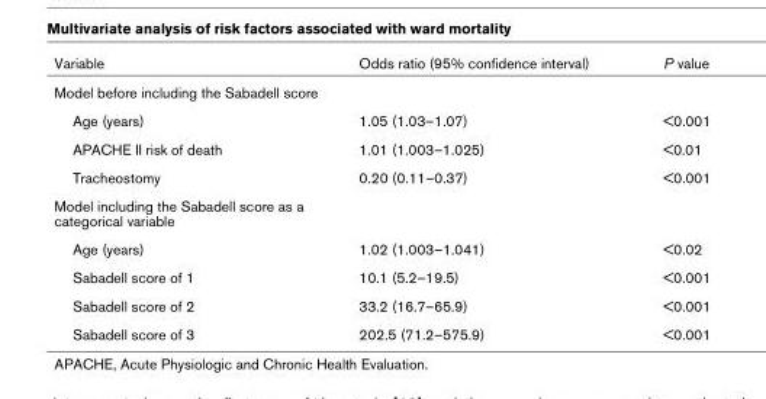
<table><thead><tr><td>Variable</td><td>Odds ratio (95% confidence interval)</td><td>P value</td></tr></thead><tbody><tr><td colspan="3">Model before including the Sabadell score</td></tr><tr><td>Age (years)</td><td>1.05 (1.03–1.07)</td><td>&lt;0.001</td></tr><tr><td>APACHE II risk of death</td><td>1.01 (1.003–1.025)</td><td>&lt;0.01</td></tr><tr><td>Tracheostomy</td><td>0.20 (0.11–0.37)</td><td>&lt;0.001</td></tr><tr><td colspan="3">Model including the Sabadell score as a categorical variable</td></tr><tr><td>Age (years)</td><td>1.02 (1.003–1.041)</td><td>&lt;0.02</td></tr><tr><td>Sabadell score of 1</td><td>10.1 (5.2–19.5)</td><td>&lt;0.001</td></tr><tr><td>Sabadell score of 2</td><td>33.2 (16.7–65.9)</td><td>&lt;0.001</td></tr><tr><td>Sabadell score of 3</td><td>202.5 (71.2–575.9)</td><td>&lt;0.001</td></tr></tbody></table>